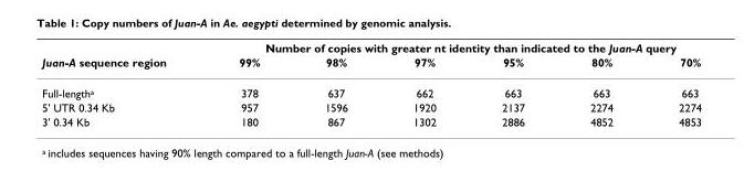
<table><thead><tr><td rowspan="2">Juan-A sequence region</td><td colspan="6">Number of copies with greater nt identity than indicated to the Juan-A query</td></tr><tr><td>99%</td><td>98%</td><td>97%</td><td>95%</td><td>80%</td><td>70%</td></tr></thead><tbody><tr><td>Full-length<sup>a</sup></td><td>378</td><td>637</td><td>662</td><td>663</td><td>663</td><td>663</td></tr><tr><td>5&#x27; UTR 0.34 Kb</td><td>957</td><td>1596</td><td>1920</td><td>2137</td><td>2274</td><td>2274</td></tr><tr><td>3&#x27; 0.34 Kb</td><td>180</td><td>867</td><td>1302</td><td>2886</td><td>4852</td><td>4853</td></tr></tbody></table>